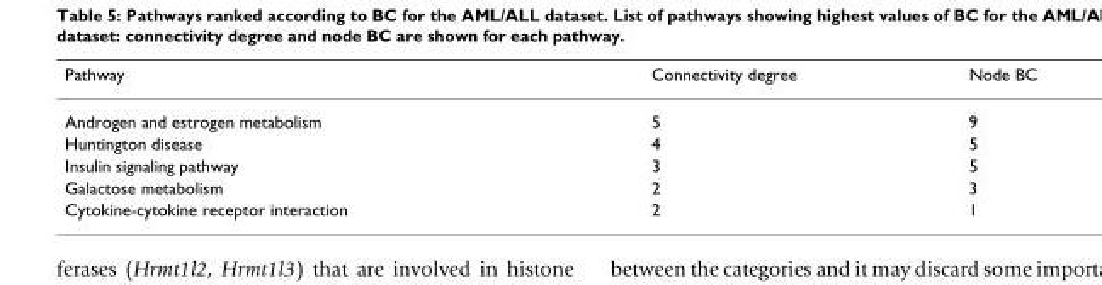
<table><thead><tr><td>Pathway</td><td>Connectivity degree</td><td>Node BC</td></tr></thead><tbody><tr><td>Androgen and estrogen metabolism</td><td>5</td><td>9</td></tr><tr><td>Huntington disease</td><td>4</td><td>5</td></tr><tr><td>Insulin signaling pathway</td><td>3</td><td>5</td></tr><tr><td>Galactose metabolism</td><td>2</td><td>3</td></tr><tr><td>Cytokine-cytokine receptor interaction</td><td>2</td><td>1</td></tr></tbody></table>